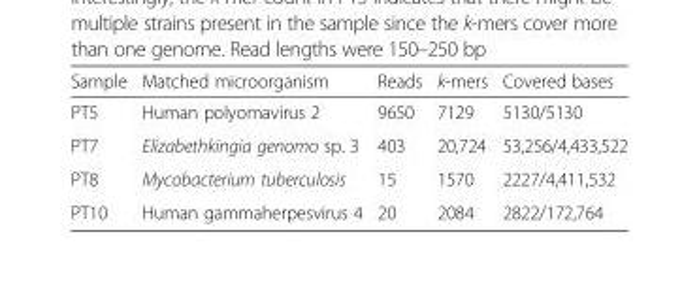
<table><thead><tr><td>Sample</td><td>Matched microorganism</td><td>Reads</td><td>k-mers</td><td>Covered bases</td></tr></thead><tbody><tr><td>PT5</td><td>Human polyomavirus 2</td><td>9650</td><td>7129</td><td>5130/5130</td></tr><tr><td>PT7</td><td>Elizabethkingia genomo sp. 3</td><td>403</td><td>20,724</td><td>53,256/4,433,522</td></tr><tr><td>PT8</td><td>Mycobacterium tuberculosis</td><td>15</td><td>1570</td><td>2227/4,411,532</td></tr><tr><td>PT10</td><td>Human gammaherpesvirus 4</td><td>20</td><td>2084</td><td>2822/172,764</td></tr></tbody></table>